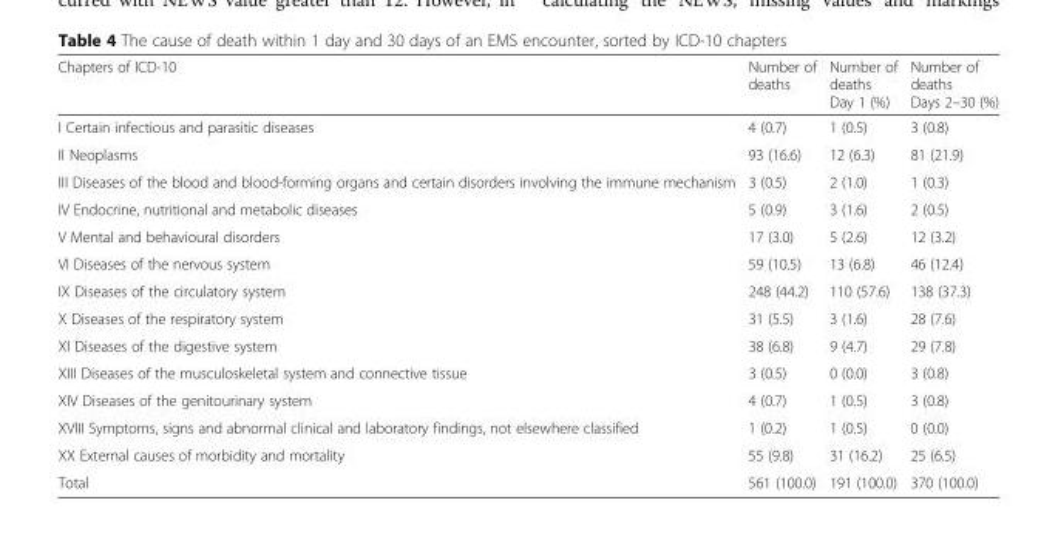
<table><thead><tr><td>Chapters of ICD-10</td><td>Number of deaths</td><td>Number of deaths Day 1 (%)</td><td>Number of deaths Days 2–30 (%)</td></tr></thead><tbody><tr><td>I Certain infectious and parasitic diseases</td><td>4 (0.7)</td><td>1 (0.5)</td><td>3 (0.8)</td></tr><tr><td>II Neoplasms</td><td>93 (16.6)</td><td>12 (6.3)</td><td>81 (21.9)</td></tr><tr><td>III Diseases of the blood and blood-forming organs and certain disorders involving the immune mechanism</td><td>3 (0.5)</td><td>2 (1.0)</td><td>1 (0.3)</td></tr><tr><td>IV Endocrine, nutritional and metabolic diseases</td><td>5 (0.9)</td><td>3 (1.6)</td><td>2 (0.5)</td></tr><tr><td>V Mental and behavioural disorders</td><td>17 (3.0)</td><td>5 (2.6)</td><td>12 (3.2)</td></tr><tr><td>VI Diseases of the nervous system</td><td>59 (10.5)</td><td>13 (6.8)</td><td>46 (12.4)</td></tr><tr><td>IX Diseases of the circulatory system</td><td>248 (44.2)</td><td>110 (57.6)</td><td>138 (37.3)</td></tr><tr><td>X Diseases of the respiratory system</td><td>31 (5.5)</td><td>3 (1.6)</td><td>28 (7.6)</td></tr><tr><td>XI Diseases of the digestive system</td><td>38 (6.8)</td><td>9 (4.7)</td><td>29 (7.8)</td></tr><tr><td>XIII Diseases of the musculoskeletal system and connective tissue</td><td>3 (0.5)</td><td>0 (0.0)</td><td>3 (0.8)</td></tr><tr><td>XIV Diseases of the genitourinary system</td><td>4 (0.7)</td><td>1 (0.5)</td><td>3 (0.8)</td></tr><tr><td>XVIII Symptoms, signs and abnormal clinical and laboratory findings, not elsewhere classified</td><td>1 (0.2)</td><td>1 (0.5)</td><td>0 (0.0)</td></tr><tr><td>XX External causes of morbidity and mortality</td><td>55 (9.8)</td><td>31 (16.2)</td><td>25 (6.5)</td></tr><tr><td>Total</td><td>561 (100.0)</td><td>191 (100.0)</td><td>370 (100.0)</td></tr></tbody></table>